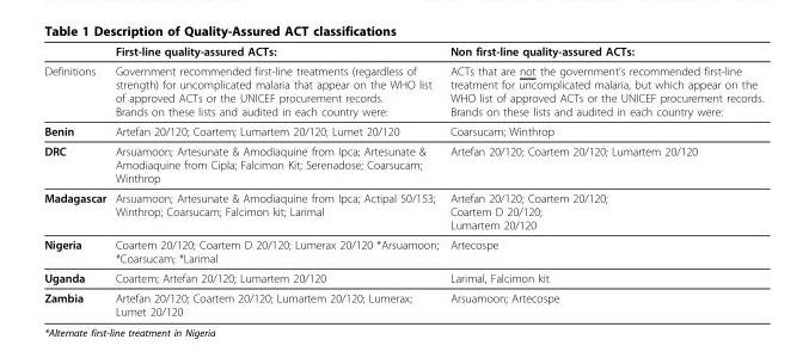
<table><thead><tr><td></td><td>First-line quality-assured ACTs:</td><td>Non first-line quality-assured ACTs:</td></tr></thead><tbody><tr><td>Definitions</td><td>Government recommended first-line treatments (regardless of strength) for uncomplicated malaria that appear on the WHO list of approved ACTs or the UNICEF procurement records. Brands on these lists and audited in each country were:</td><td>ACTs that are not the government’s recommended first-line treatment for uncomplicated malaria, but which appear on the WHO list of approved ACTs or the UNICEF procurement records. Brands on these lists and audited in each country were:</td></tr><tr><td>Benin</td><td>Artefan 20/120; Coartem; Lumartem 20/120; Lumet 20/120</td><td>Coarsucam; Winthrop</td></tr><tr><td>DRC</td><td>Arsuamoon; Artesunate &amp; Amodiaquine from Ipca; Artesunate &amp; Amodiaquine from Cipla; Falcimon Kit; Serenadose; Coarsucam; Winthrop</td><td>Artefan 20/120; Coartem 20/120; Lumartem 20/120</td></tr><tr><td>Madagascar</td><td>Arsuamoon; Artesunate &amp; Amodiaquine from Ipca; Actipal 50/153; Winthrop; Coarsucam; Falcimon kit; Larimal</td><td>Artefan 20/120; Coartem 20/120; Coartem D 20/120; Lumartem 20/120</td></tr><tr><td>Nigeria</td><td>Coartem 20/120; Coartem D 20/120; Lumerax 20/120 *Arsuamoon; *Coarsucam; *Larimal</td><td>Artecospe</td></tr><tr><td>Uganda</td><td>Coartem; Artefan 20/120; Lumartem 20/120</td><td>Larimal, Falcimon kit</td></tr><tr><td>Zambia</td><td>Artefan 20/120; Coartem 20/120; Lumartem 20/120; Lumerax; Lumet 20/120</td><td>Arsuamoon; Artecospe</td></tr></tbody></table>